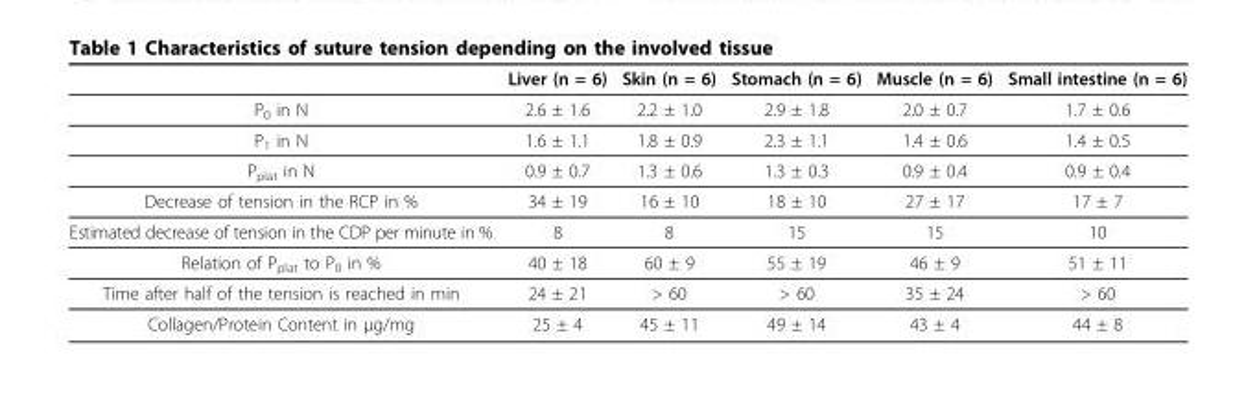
<table><thead><tr><td></td><td>Liver (n = 6)</td><td>Skin (n = 6)</td><td>Stomach (n = 6)</td><td>Muscle (n = 6)</td><td>Small intestine (n = 6)</td></tr></thead><tbody><tr><td>P<sub>0</sub> in N</td><td>2.6 ± 1.6</td><td>2.2 ± 1.0</td><td>2.9 ± 1.8</td><td>2.0 ± 0.7</td><td>1.7 ± 0.6</td></tr><tr><td>P<sub>1</sub> in N</td><td>1.6 ± 1.1</td><td>1.8 ± 0.9</td><td>2.3 ± 1.1</td><td>1.4 ± 0.6</td><td>1.4 ± 0.5</td></tr><tr><td>P<sub>plat</sub> in N</td><td>0.9 ± 0.7</td><td>1.3 ± 0.6</td><td>1.3 ± 0.3</td><td>0.9 ± 0.4</td><td>0.9 ± 0.4</td></tr><tr><td>Decrease of tension in the RCP in %</td><td>34 ± 19</td><td>16 ± 10</td><td>18 ± 10</td><td>27 ± 17</td><td>17 ± 7</td></tr><tr><td>Estimated decrease of tension in the CDP per minute in %</td><td>8</td><td>8</td><td>15</td><td>15</td><td>10</td></tr><tr><td>Relation of P<sub>plat</sub> to P<sub>0</sub> in %</td><td>40 ± 18</td><td>60 ± 9</td><td>55 ± 19</td><td>46 ± 9</td><td>51 ± 11</td></tr><tr><td>Time after half of the tension is reached in min</td><td>24 ± 21</td><td>&gt; 60</td><td>&gt; 60</td><td>35 ± 24</td><td>&gt; 60</td></tr><tr><td>Collagen/Protein Content in µg/mg</td><td>25 ± 4</td><td>45 ± 11</td><td>49 ± 14</td><td>43 ± 4</td><td>44 ± 8</td></tr></tbody></table>